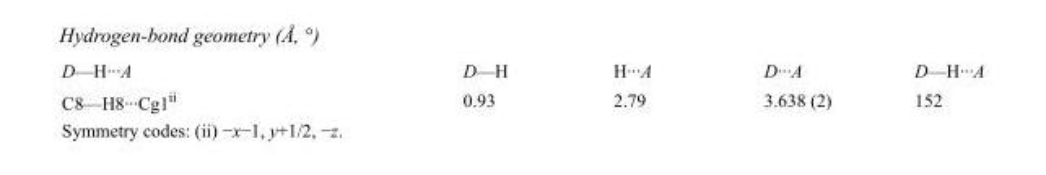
<table><tbody><tr><td>D—H···A</td><td>D—H</td><td>H···A</td><td>D···A</td><td>D—H···A</td></tr><tr><td>C8—H8···Cg1<sup>ii</sup></td><td>0.93</td><td>2.79</td><td>3.638 (2)</td><td>152</td></tr></tbody></table>